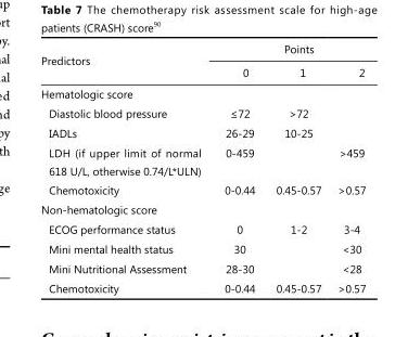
<table><thead><tr><td rowspan="2">Predictors</td><td colspan="3">Points</td></tr><tr><td>0</td><td>1</td><td>2</td></tr></thead><tbody><tr><td colspan="4">Hematologic score</td></tr><tr><td>Diastolic blood pressure</td><td>≤72</td><td>&gt;72</td><td></td></tr><tr><td>IADLs</td><td>26-29</td><td>10-25</td><td></td></tr><tr><td>LDH (if upper limit of normal 618 U/L, otherwise 0.74/L*ULN)</td><td>0-459</td><td></td><td>&gt;459</td></tr><tr><td>Chemotoxicity</td><td>0-0.44</td><td>0.45-0.57</td><td>&gt;0.57</td></tr><tr><td colspan="4">Non-hematologic score</td></tr><tr><td>ECOG performance status</td><td>0</td><td>1-2</td><td>3-4</td></tr><tr><td>Mini mental health status</td><td>30</td><td></td><td>&lt;30</td></tr><tr><td>Mini Nutritional Assessment</td><td>28-30</td><td></td><td>&lt;28</td></tr><tr><td>Chemotoxicity</td><td>0-0.44</td><td>0.45-0.57</td><td>&gt;0.57</td></tr></tbody></table>